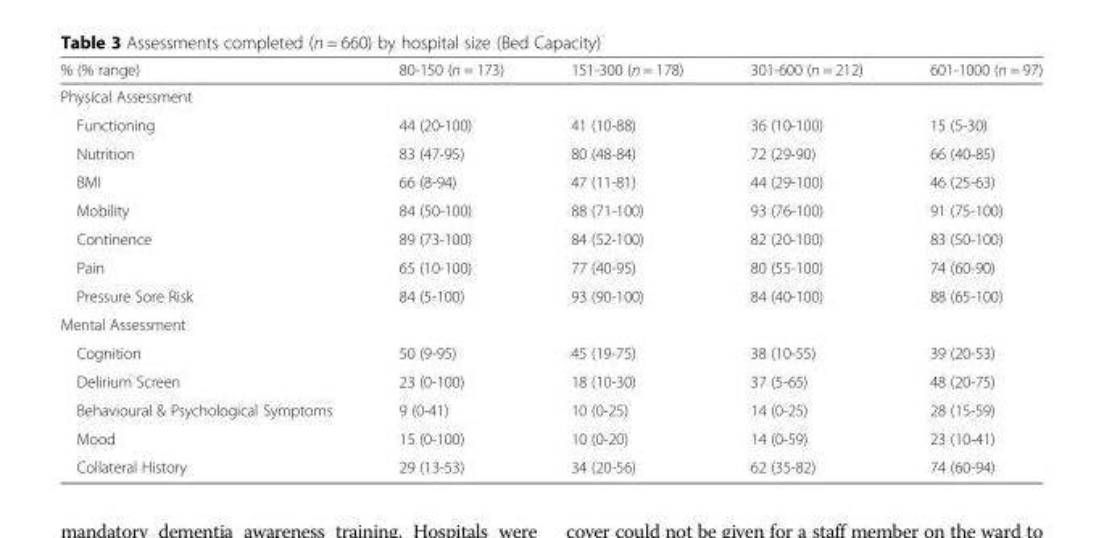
<table><thead><tr><td>% (% range)</td><td>80-150 (n = 173)</td><td>151-300 (n = 178)</td><td>301-600 (n = 212)</td><td>601-1000 (n = 97)</td></tr></thead><tbody><tr><td colspan="5">Physical Assessment</td></tr><tr><td>Functioning</td><td>44 (20-100)</td><td>41 (10-88)</td><td>36 (10-100)</td><td>15 (5-30)</td></tr><tr><td>Nutrition</td><td>83 (47-95)</td><td>80 (48-84)</td><td>72 (29-90)</td><td>66 (40-85)</td></tr><tr><td>BMI</td><td>66 (8-94)</td><td>47 (11-81)</td><td>44 (29-100)</td><td>46 (25-63)</td></tr><tr><td>Mobility</td><td>84 (50-100)</td><td>88 (71-100)</td><td>93 (76-100)</td><td>91 (75-100)</td></tr><tr><td>Continence</td><td>89 (73-100)</td><td>84 (52-100)</td><td>82 (20-100)</td><td>83 (50-100)</td></tr><tr><td>Pain</td><td>65 (10-100)</td><td>77 (40-95)</td><td>80 (55-100)</td><td>74 (60-90)</td></tr><tr><td>Pressure Sore Risk</td><td>84 (5-100)</td><td>93 (90-100)</td><td>84 (40-100)</td><td>88 (65-100)</td></tr><tr><td colspan="5">Mental Assessment</td></tr><tr><td>Cognition</td><td>50 (9-95)</td><td>45 (19-75)</td><td>38 (10-55)</td><td>39 (20-53)</td></tr><tr><td>Delirium Screen</td><td>23 (0-100)</td><td>18 (10-30)</td><td>37 (5-65)</td><td>48 (20-75)</td></tr><tr><td>Behavioural &amp; Psychological Symptoms</td><td>9 (0-41)</td><td>10 (0-25)</td><td>14 (0-25)</td><td>28 (15-59)</td></tr><tr><td>Mood</td><td>15 (0-100)</td><td>10 (0-20)</td><td>14 (0-59)</td><td>23 (10-41)</td></tr><tr><td>Collateral History</td><td>29 (13-53)</td><td>34 (20-56)</td><td>62 (35-82)</td><td>74 (60-94)</td></tr></tbody></table>